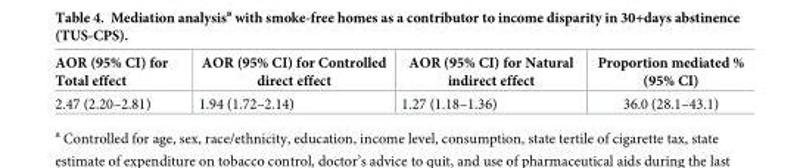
<table><thead><tr><td>AOR (95% CI) for Total effect</td><td>AOR (95% CI) for Controlled direct effect</td><td>AOR (95% CI) for Natural indirect effect</td><td>Proportion mediated % (95% CI)</td></tr></thead><tbody><tr><td>2.47 (2.20–2.81)</td><td>1.94 (1.72–2.14)</td><td>1.27 (1.18–1.36)</td><td>36.0 (28.1–43.1)</td></tr></tbody></table>